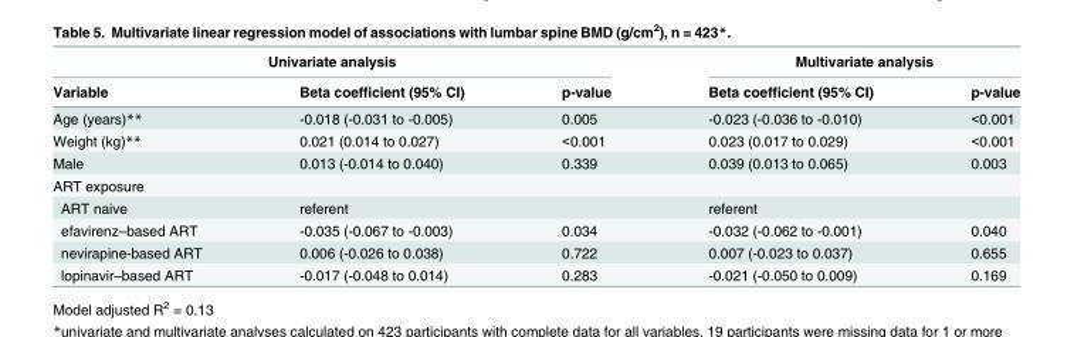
<table><thead><tr><td colspan="3">Univariate analysis</td><td colspan="2">Multivariate analysis</td></tr><tr><td>Variable</td><td>Beta coefficient (95% CI)</td><td>p-value</td><td>Beta coefficient (95% CI)</td><td>p-value</td></tr></thead><tbody><tr><td>Age (years)**</td><td>-0.018 (-0.031 to -0.005)</td><td>0.005</td><td>-0.023 (-0.036 to -0.010)</td><td>&lt;0.001</td></tr><tr><td>Weight (kg)**</td><td>0.021 (0.014 to 0.027)</td><td>&lt;0.001</td><td>0.023 (0.017 to 0.029)</td><td>&lt;0.001</td></tr><tr><td>Male</td><td>0.013 (-0.014 to 0.040)</td><td>0.339</td><td>0.039 (0.013 to 0.065)</td><td>0.003</td></tr><tr><td colspan="5">ART exposure</td></tr><tr><td>ART naive</td><td>referent</td><td></td><td>referent</td><td></td></tr><tr><td>efavirenz–based ART</td><td>-0.035 (-0.067 to -0.003)</td><td>0.034</td><td>-0.032 (-0.062 to -0.001)</td><td>0.040</td></tr><tr><td>nevirapine-based ART</td><td>0.006 (-0.026 to 0.038)</td><td>0.722</td><td>0.007 (-0.023 to 0.037)</td><td>0.655</td></tr><tr><td>lopinavir–based ART</td><td>-0.017 (-0.048 to 0.014)</td><td>0.283</td><td>-0.021 (-0.050 to 0.009)</td><td>0.169</td></tr></tbody></table>